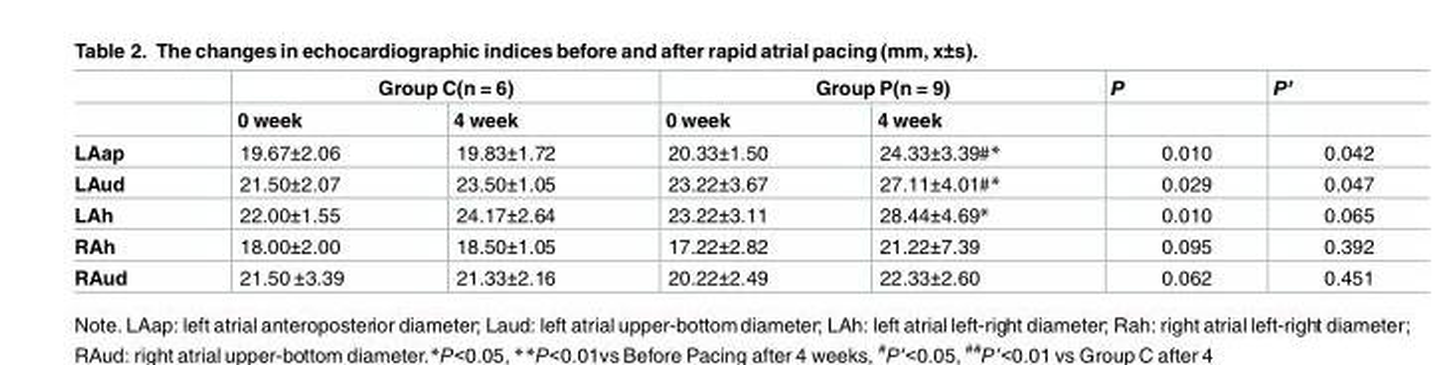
<table><thead><tr><td rowspan="2"></td><td colspan="2">Group C(n = 6)</td><td colspan="2">Group P(n = 9)</td><td rowspan="2">P</td><td rowspan="2">P’</td></tr><tr><td>0 week</td><td>4 week</td><td>0 week</td><td>4 week</td></tr></thead><tbody><tr><td>LAap</td><td>19.67±2.06</td><td>19.83±1.72</td><td>20.33±1.50</td><td>24.33±3.39#*</td><td>0.010</td><td>0.042</td></tr><tr><td>LAud</td><td>21.50±2.07</td><td>23.50±1.05</td><td>23.22±3.67</td><td>27.11±4.01#*</td><td>0.029</td><td>0.047</td></tr><tr><td>LAh</td><td>22.00±1.55</td><td>24.17±2.64</td><td>23.22±3.11</td><td>28.44±4.69*</td><td>0.010</td><td>0.065</td></tr><tr><td>RAh</td><td>18.00±2.00</td><td>18.50±1.05</td><td>17.22±2.82</td><td>21.22±7.39</td><td>0.095</td><td>0.392</td></tr><tr><td>RAud</td><td>21.50 ±3.39</td><td>21.33±2.16</td><td>20.22±2.49</td><td>22.33±2.60</td><td>0.062</td><td>0.451</td></tr></tbody></table>